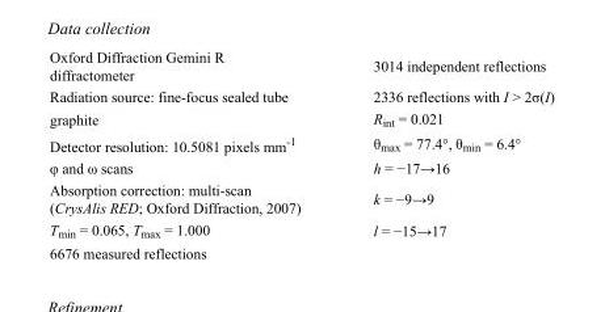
<table><tbody><tr><td>Oxford Diffraction Gemini R diffractometer</td><td>3014 independent reflections</td></tr><tr><td>Radiation source: fine-focus sealed tube</td><td>2336 reflections with I &gt; 2σ(I)</td></tr><tr><td>graphite</td><td>R<sub>int</sub> = 0.021</td></tr><tr><td>Detector resolution: 10.5081 pixels mm<sup>-1</sup></td><td>θ<sub>max</sub> = 77.4°, θ<sub>min</sub> = 6.4°</td></tr><tr><td>φ and ω scans</td><td>h = −17→16</td></tr><tr><td>Absorption correction: multi-scan (CrysAlis RED; Oxford Diffraction, 2007)</td><td>k = −9→9</td></tr><tr><td>T<sub>min</sub> = 0.065, T<sub>max</sub> = 1.000</td><td>l = −15→17</td></tr><tr><td>6676 measured reflections</td><td></td></tr></tbody></table>